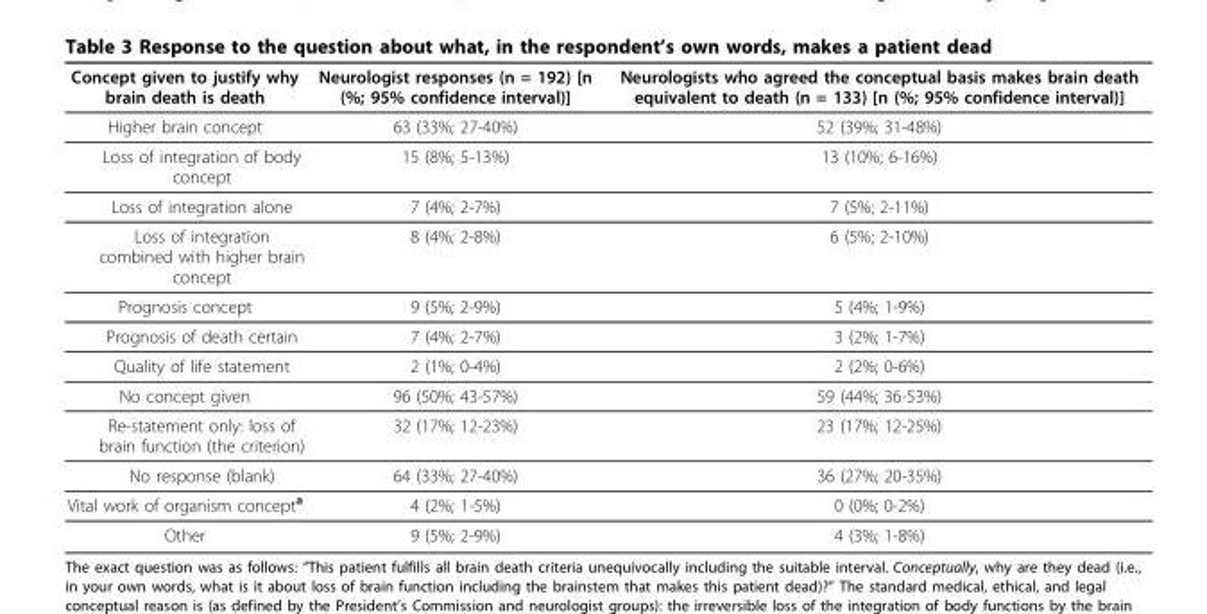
<table><thead><tr><td>Concept given to justify why brain death is death</td><td>Neurologist responses (n = 192) [n (%; 95% confidence interval)]</td><td>Neurologists who agreed the conceptual basis makes brain death equivalent to death (n = 133) [n (%; 95% confidence interval)]</td></tr></thead><tbody><tr><td>Higher brain concept</td><td>63 (33%; 27-40%)</td><td>52 (39%; 31-48%)</td></tr><tr><td>Loss of integration of body concept</td><td>15 (8%; 5-13%)</td><td>13 (10%; 6-16%)</td></tr><tr><td>Loss of integration alone</td><td>7 (4%; 2-7%)</td><td>7 (5%; 2-11%)</td></tr><tr><td>Loss of integration combined with higher brain concept</td><td>8 (4%; 2-8%)</td><td>6 (5%; 2-10%)</td></tr><tr><td>Prognosis concept</td><td>9 (5%; 2-9%)</td><td>5 (4%; 1-9%)</td></tr><tr><td>Prognosis of death certain</td><td>7 (4%; 2-7%)</td><td>3 (2%; 1-7%)</td></tr><tr><td>Quality of life statement</td><td>2 (1%; 0-4%)</td><td>2 (2%; 0-6%)</td></tr><tr><td>No concept given</td><td>96 (50%; 43-57%)</td><td>59 (44%; 36-53%)</td></tr><tr><td>Re-statement only: loss of brain function (the criterion)</td><td>32 (17%; 12-23%)</td><td>23 (17%; 12-25%)</td></tr><tr><td>No response (blank)</td><td>64 (33%; 27-40%)</td><td>36 (27%; 20-35%)</td></tr><tr><td>Vital work of organism concept<sup>a</sup></td><td>4 (2%; 1-5%)</td><td>0 (0%; 0-2%)</td></tr><tr><td>Other</td><td>9 (5%; 2-9%)</td><td>4 (3%; 1-8%)</td></tr></tbody></table>